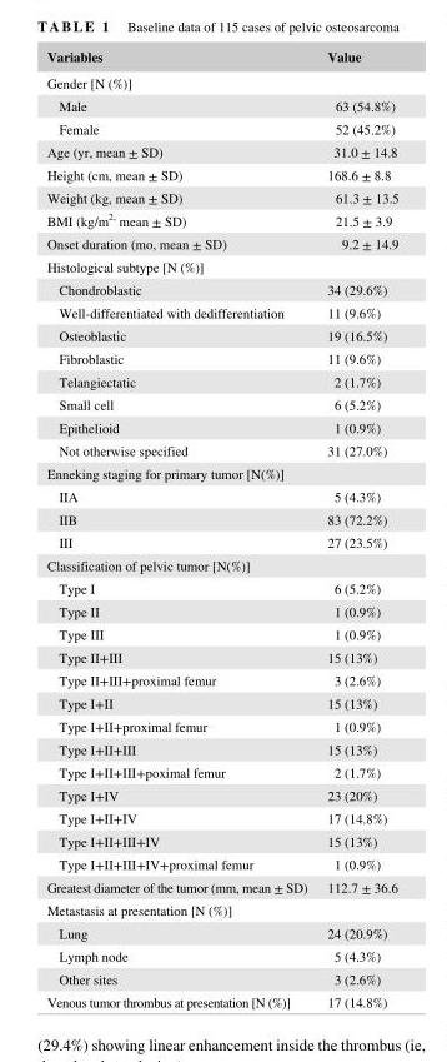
<table><thead><tr><td>Variables</td><td>Value</td></tr></thead><tbody><tr><td colspan="2">Gender [N (%)]</td></tr><tr><td>Male</td><td>63 (54.8%)</td></tr><tr><td>Female</td><td>52 (45.2%)</td></tr><tr><td>Age (yr, mean ± SD)</td><td>31.0 ± 14.8</td></tr><tr><td>Height (cm, mean ± SD)</td><td>168.6 ± 8.8</td></tr><tr><td>Weight (kg, mean ± SD)</td><td>61.3 ± 13.5</td></tr><tr><td>BMI (kg/m<sup>2,</sup> mean ± SD)</td><td>21.5 ± 3.9</td></tr><tr><td>Onset duration (mo, mean ± SD)</td><td>9.2 ± 14.9</td></tr><tr><td colspan="2">Histological subtype [N (%)]</td></tr><tr><td>Chondroblastic</td><td>34 (29.6%)</td></tr><tr><td>Well- differentiated with dedifferentiation</td><td>11 (9.6%)</td></tr><tr><td>Osteoblastic</td><td>19 (16.5%)</td></tr><tr><td>Fibroblastic</td><td>11 (9.6%)</td></tr><tr><td>Telangiectatic</td><td>2 (1.7%)</td></tr><tr><td>Small cell</td><td>6 (5.2%)</td></tr><tr><td>Epithelioid</td><td>1 (0.9%)</td></tr><tr><td>Not otherwise specified</td><td>31 (27.0%)</td></tr><tr><td colspan="2">Enneking staging for primary tumor [N(%)]</td></tr><tr><td>IIA</td><td>5 (4.3%)</td></tr><tr><td>IIB</td><td>83 (72.2%)</td></tr><tr><td>III</td><td>27 (23.5%)</td></tr><tr><td colspan="2">Classification of pelvic tumor [N(%)]</td></tr><tr><td>Type I</td><td>6 (5.2%)</td></tr><tr><td>Type II</td><td>1 (0.9%)</td></tr><tr><td>Type III</td><td>1 (0.9%)</td></tr><tr><td>Type II+III</td><td>15 (13%)</td></tr><tr><td>Type II+III+proximal femur</td><td>3 (2.6%)</td></tr><tr><td>Type I+II</td><td>15 (13%)</td></tr><tr><td>Type I+II+proximal femur</td><td>1 (0.9%)</td></tr><tr><td>Type I+II+III</td><td>15 (13%)</td></tr><tr><td>Type I+II+III+poximal femur</td><td>2 (1.7%)</td></tr><tr><td>Type I+IV</td><td>23 (20%)</td></tr><tr><td>Type I+II+IV</td><td>17 (14.8%)</td></tr><tr><td>Type I+II+III+IV</td><td>15 (13%)</td></tr><tr><td>Type I+II+III+IV+proximal femur</td><td>1 (0.9%)</td></tr><tr><td>Greatest diameter of the tumor (mm, mean ± SD)</td><td>112.7 ± 36.6</td></tr><tr><td colspan="2">Metastasis at presentation [N (%)]</td></tr><tr><td>Lung</td><td>24 (20.9%)</td></tr><tr><td>Lymph node</td><td>5 (4.3%)</td></tr><tr><td>Other sites</td><td>3 (2.6%)</td></tr><tr><td>Venous tumor thrombus at presentation [N (%)]</td><td>17 (14.8%)</td></tr></tbody></table>